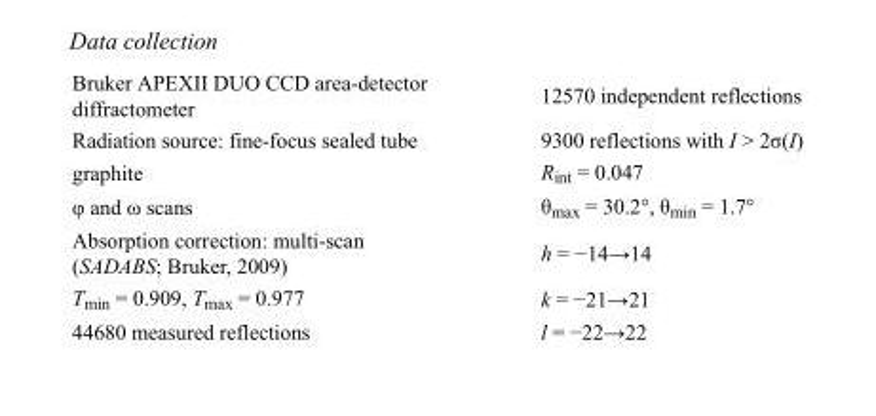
<table><tbody><tr><td>Bruker APEXII DUO CCD area-detector diffractometer</td><td>12570 independent reflections</td></tr><tr><td>Radiation source: fine-focus sealed tube</td><td>9300 reflections with I &gt; 2σ(I)</td></tr><tr><td>graphite</td><td>R<sub>int</sub> = 0.047</td></tr><tr><td>φ and ω scans</td><td>θ<sub>max</sub> = 30.2°, θ<sub>min</sub> = 1.7°</td></tr><tr><td>Absorption correction: multi-scan (SADABS; Bruker, 2009)</td><td>h = −14→14</td></tr><tr><td>T<sub>min</sub> = 0.909, T<sub>max</sub> = 0.977</td><td>k = −21→21</td></tr><tr><td>44680 measured reflections</td><td>l = −22→22</td></tr></tbody></table>